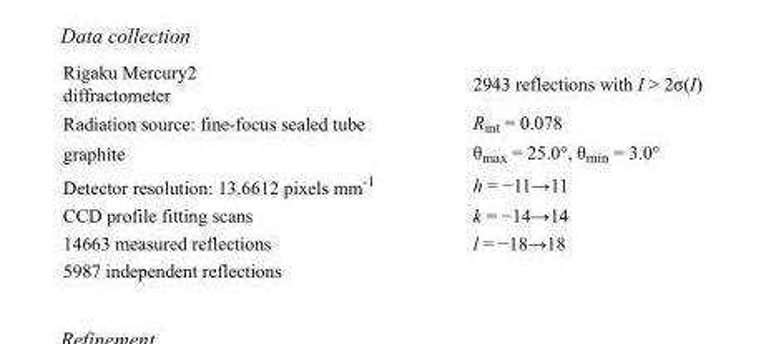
<table><tbody><tr><td>Rigaku Mercury2 diffractometer</td><td>2943 reflections with I &gt; 2σ(I)</td></tr><tr><td>Radiation source: fine-focus sealed tube</td><td>R<sub>int</sub> = 0.078</td></tr><tr><td>graphite</td><td>θ<sub>max</sub> = 25.0°, θ<sub>min</sub> = 3.0°</td></tr><tr><td>Detector resolution: 13.6612 pixels mm<sup>-1</sup></td><td>h = −11→11</td></tr><tr><td>CCD profile fitting scans</td><td>k = −14→14</td></tr><tr><td>14663 measured reflections</td><td>l = −18→18</td></tr><tr><td>5987 independent reflections</td><td></td></tr></tbody></table>